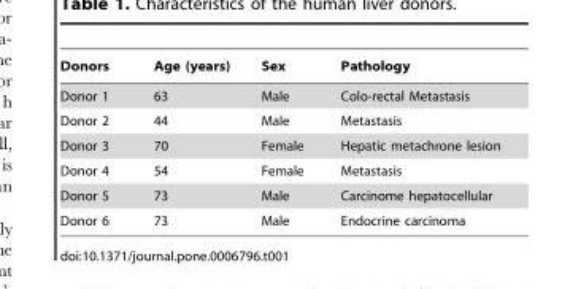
<table><thead><tr><td>Donors</td><td>Age (years)</td><td>Sex</td><td>Pathology</td></tr></thead><tbody><tr><td>Donor 1</td><td>63</td><td>Male</td><td>Colo-rectal Metastasis</td></tr><tr><td>Donor 2</td><td>44</td><td>Male</td><td>Metastasis</td></tr><tr><td>Donor 3</td><td>70</td><td>Female</td><td>Hepatic metachrone lesion</td></tr><tr><td>Donor 4</td><td>54</td><td>Female</td><td>Metastasis</td></tr><tr><td>Donor 5</td><td>73</td><td>Male</td><td>Carcinome hepatocellular</td></tr><tr><td>Donor 6</td><td>73</td><td>Male</td><td>Endocrine carcinoma</td></tr></tbody></table>